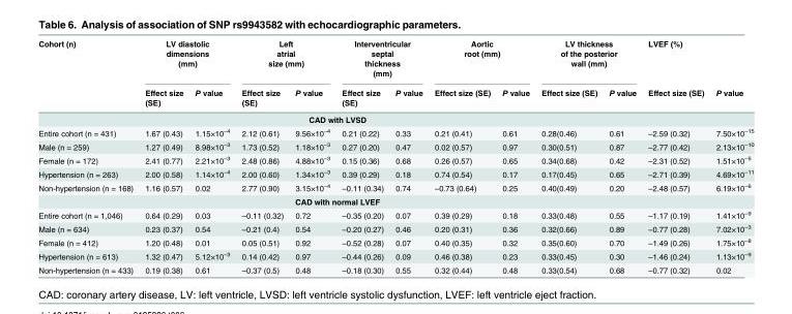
<table><thead><tr><td rowspan="2">Cohort (n)</td><td colspan="2">LV diastolic dimensions (mm)</td><td colspan="2">Left atrial size (mm)</td><td colspan="2">Interventricular septal thickness (mm)</td><td colspan="2">Aortic root (mm)</td><td colspan="2">LV thickness of the posterior wall (mm)</td><td rowspan="2">LVEF (%) Effect size (SE)</td><td rowspan="2">P value</td></tr><tr><td>Effect size (SE)</td><td>P value</td><td>Effect size (SE)</td><td>P value</td><td>Effect size (SE)</td><td>P value</td><td>Effect size (SE)</td><td>P value</td><td>Effect size (SE)</td><td>P value</td></tr></thead><tbody><tr><td colspan="13">CAD with LVSD</td></tr><tr><td>Entire cohort (n = 431)</td><td>1.67 (0.43)</td><td>1.15×10<sup>–4</sup></td><td>2.12 (0.61)</td><td>9.56×10<sup>–4</sup></td><td>0.21 (0.22)</td><td>0.33</td><td>0.21 (0.41)</td><td>0.61</td><td>0.28(0.46)</td><td>0.61</td><td>–2.59 (0.32)</td><td>7.50×10<sup>–15</sup></td></tr><tr><td>Male (n = 259)</td><td>1.27 (0.49)</td><td>8.98×10<sup>–3</sup></td><td>1.73 (0.52)</td><td>1.18×10<sup>–3</sup></td><td>0.27 (0.20)</td><td>0.47</td><td>0.02 (0.57)</td><td>0.97</td><td>0.30(0.51)</td><td>0.87</td><td>–2.77 (0.42)</td><td>2.13×10<sup>–10</sup></td></tr><tr><td>Female (n = 172)</td><td>2.41 (0.77)</td><td>2.21×10<sup>–3</sup></td><td>2.48 (0.86)</td><td>4.88×10<sup>–3</sup></td><td>0.15 (0.36)</td><td>0.68</td><td>0.26 (0.57)</td><td>0.65</td><td>0.34(0.68)</td><td>0.42</td><td>–2.31 (0.52)</td><td>1.51×10<sup>–5</sup></td></tr><tr><td>Hypertension (n = 263)</td><td>2.00 (0.58)</td><td>1.14×10<sup>–4</sup></td><td>2.00 (0.60)</td><td>1.34×10<sup>–3</sup></td><td>0.39 (0.29)</td><td>0.18</td><td>0.74 (0.54)</td><td>0.17</td><td>0.17(0.45)</td><td>0.65</td><td>–2.71 (0.39)</td><td>4.69×10<sup>–11</sup></td></tr><tr><td>Non-hypertension (n = 168)</td><td>1.16 (0.57)</td><td>0.02</td><td>2.77 (0.90)</td><td>3.15×10<sup>–4</sup></td><td>–0.11 (0.34)</td><td>0.74</td><td>–0.73 (0.64)</td><td>0.25</td><td>0.40(0.49)</td><td>0.20</td><td>–2.48 (0.57)</td><td>6.19×10<sup>–6</sup></td></tr><tr><td colspan="13">CAD with normal LVEF</td></tr><tr><td>Entire cohort (n = 1,046)</td><td>0.64 (0.29)</td><td>0.03</td><td>–0.11 (0.32)</td><td>0.72</td><td>–0.35 (0.20)</td><td>0.07</td><td>0.39 (0.29)</td><td>0.18</td><td>0.33(0.48)</td><td>0.55</td><td>–1.17 (0.19)</td><td>1.41×10<sup>–9</sup></td></tr><tr><td>Male (n = 634)</td><td>0.23 (0.37)</td><td>0.54</td><td>–0.21 (0.4)</td><td>0.54</td><td>–0.20 (0.27)</td><td>0.46</td><td>0.20 (0.31)</td><td>0.36</td><td>0.32(0.66)</td><td>0.89</td><td>–0.77 (0.28)</td><td>7.02×10<sup>–3</sup></td></tr><tr><td>Female (n = 412)</td><td>1.20 (0.48)</td><td>0.01</td><td>0.05 (0.51)</td><td>0.92</td><td>–0.52 (0.28)</td><td>0.07</td><td>0.40 (0.35)</td><td>0.32</td><td>0.35(0.60)</td><td>0.70</td><td>–1.49 (0.26)</td><td>1.75×10<sup>–8</sup></td></tr><tr><td>Hypertension (n = 613)</td><td>1.32 (0.47)</td><td>5.12×10<sup>–3</sup></td><td>0.14 (0.42)</td><td>0.97</td><td>–0.44 (0.26)</td><td>0.09</td><td>0.46 (0.38)</td><td>0.23</td><td>0.33(0.45)</td><td>0.30</td><td>–1.46 (0.24)</td><td>1.13×10<sup>–9</sup></td></tr><tr><td>Non-hypertension (n = 433)</td><td>0.19 (0.38)</td><td>0.61</td><td>–0.37 (0.5)</td><td>0.48</td><td>–0.18 (0.30)</td><td>0.55</td><td>0.32 (0.44)</td><td>0.48</td><td>0.33(0.54)</td><td>0.68</td><td>–0.77 (0.32)</td><td>0.02</td></tr></tbody></table>